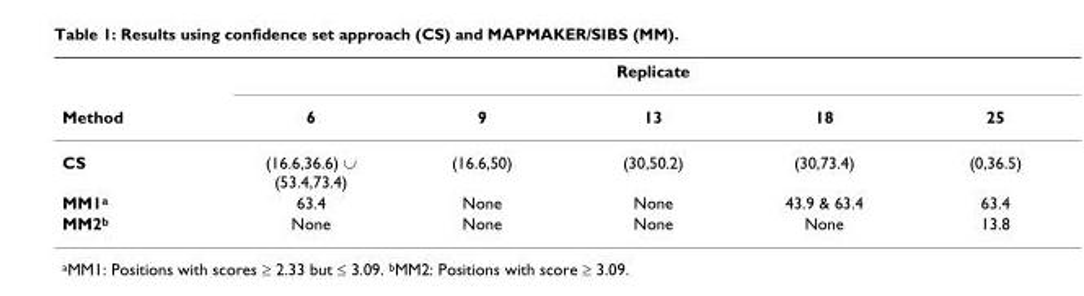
<table><thead><tr><td rowspan="2">Method</td><td colspan="5">Replicate</td></tr><tr><td>6</td><td>9</td><td>13</td><td>18</td><td>25</td></tr></thead><tbody><tr><td>CS</td><td>(16.6,36.6) ∪ (53.4,73.4)</td><td>(16.6,50)</td><td>(30,50.2)</td><td>(30,73.4)</td><td>(0,36.5)</td></tr><tr><td>MM1a</td><td>63.4</td><td>None</td><td>None</td><td>43.9 &amp; 63.4</td><td>63.4</td></tr><tr><td>MM2b</td><td>None</td><td>None</td><td>None</td><td>None</td><td>13.8</td></tr></tbody></table>